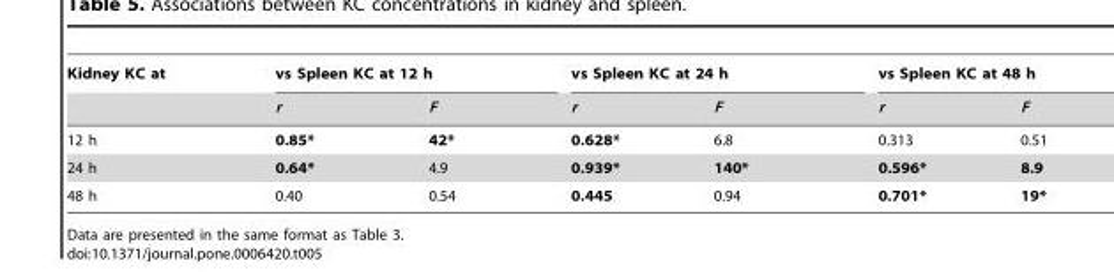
<table><thead><tr><td rowspan="2">Kidney KC at</td><td colspan="2">vs Spleen KC at 12 h</td><td colspan="2">vs Spleen KC at 24 h</td><td colspan="2">vs Spleen KC at 48 h</td></tr><tr><td>r</td><td>F</td><td>r</td><td>F</td><td>r</td><td>F</td></tr></thead><tbody><tr><td>12 h</td><td>0.85*</td><td>42*</td><td>0.628*</td><td>6.8</td><td>0.313</td><td>0.51</td></tr><tr><td>24 h</td><td>0.64*</td><td>4.9</td><td>0.939*</td><td>140*</td><td>0.596*</td><td>8.9</td></tr><tr><td>48 h</td><td>0.40</td><td>0.54</td><td>0.445</td><td>0.94</td><td>0.701*</td><td>19*</td></tr></tbody></table>